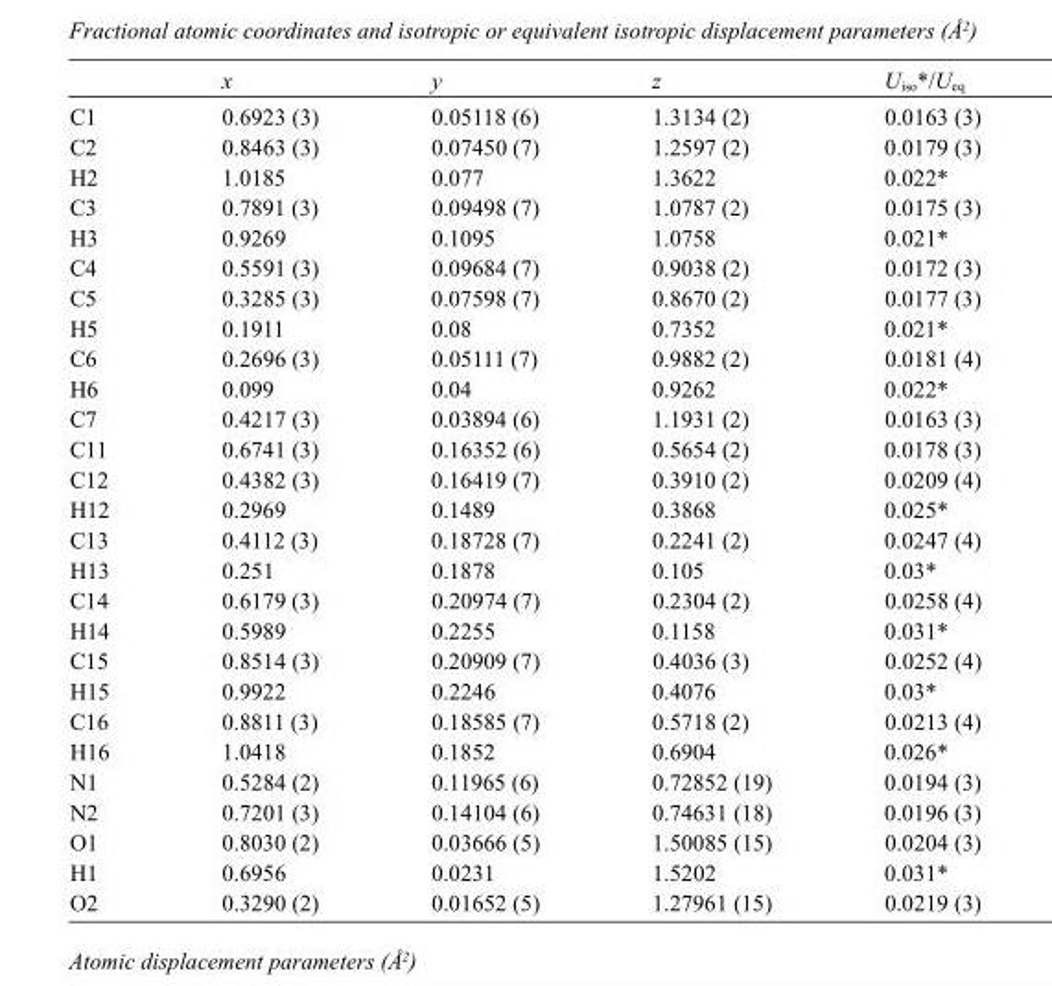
<table><thead><tr><td></td><td>x</td><td>y</td><td>z</td><td>U<sub>iso</sub>*/U<sub>eq</sub></td></tr></thead><tbody><tr><td>C1</td><td>0.6923 (3)</td><td>0.05118 (6)</td><td>1.3134 (2)</td><td>0.0163 (3)</td></tr><tr><td>C2</td><td>0.8463 (3)</td><td>0.07450 (7)</td><td>1.2597 (2)</td><td>0.0179 (3)</td></tr><tr><td>H2</td><td>1.0185</td><td>0.077</td><td>1.3622</td><td>0.022*</td></tr><tr><td>C3</td><td>0.7891 (3)</td><td>0.09498 (7)</td><td>1.0787 (2)</td><td>0.0175 (3)</td></tr><tr><td>H3</td><td>0.9269</td><td>0.1095</td><td>1.0758</td><td>0.021*</td></tr><tr><td>C4</td><td>0.5591 (3)</td><td>0.09684 (7)</td><td>0.9038 (2)</td><td>0.0172 (3)</td></tr><tr><td>C5</td><td>0.3285 (3)</td><td>0.07598 (7)</td><td>0.8670 (2)</td><td>0.0177 (3)</td></tr><tr><td>H5</td><td>0.1911</td><td>0.08</td><td>0.7352</td><td>0.021*</td></tr><tr><td>C6</td><td>0.2696 (3)</td><td>0.05111 (7)</td><td>0.9882 (2)</td><td>0.0181 (4)</td></tr><tr><td>H6</td><td>0.099</td><td>0.04</td><td>0.9262</td><td>0.022*</td></tr><tr><td>C7</td><td>0.4217 (3)</td><td>0.03894 (6)</td><td>1.1931 (2)</td><td>0.0163 (3)</td></tr><tr><td>C11</td><td>0.6741 (3)</td><td>0.16352 (6)</td><td>0.5654 (2)</td><td>0.0178 (3)</td></tr><tr><td>C12</td><td>0.4382 (3)</td><td>0.16419 (7)</td><td>0.3910 (2)</td><td>0.0209 (4)</td></tr><tr><td>H12</td><td>0.2969</td><td>0.1489</td><td>0.3868</td><td>0.025*</td></tr><tr><td>C13</td><td>0.4112 (3)</td><td>0.18728 (7)</td><td>0.2241 (2)</td><td>0.0247 (4)</td></tr><tr><td>H13</td><td>0.251</td><td>0.1878</td><td>0.105</td><td>0.03*</td></tr><tr><td>C14</td><td>0.6179 (3)</td><td>0.20974 (7)</td><td>0.2304 (2)</td><td>0.0258 (4)</td></tr><tr><td>H14</td><td>0.5989</td><td>0.2255</td><td>0.1158</td><td>0.031*</td></tr><tr><td>C15</td><td>0.8514 (3)</td><td>0.20909 (7)</td><td>0.4036 (3)</td><td>0.0252 (4)</td></tr><tr><td>H15</td><td>0.9922</td><td>0.2246</td><td>0.4076</td><td>0.03*</td></tr><tr><td>C16</td><td>0.8811 (3)</td><td>0.18585 (7)</td><td>0.5718 (2)</td><td>0.0213 (4)</td></tr><tr><td>H16</td><td>1.0418</td><td>0.1852</td><td>0.6904</td><td>0.026*</td></tr><tr><td>N1</td><td>0.5284 (2)</td><td>0.11965 (6)</td><td>0.72852 (19)</td><td>0.0194 (3)</td></tr><tr><td>N2</td><td>0.7201 (3)</td><td>0.14104 (6)</td><td>0.74631 (18)</td><td>0.0196 (3)</td></tr><tr><td>O1</td><td>0.8030 (2)</td><td>0.03666 (5)</td><td>1.50085 (15)</td><td>0.0204 (3)</td></tr><tr><td>H1</td><td>0.6956</td><td>0.0231</td><td>1.5202</td><td>0.031*</td></tr><tr><td>O2</td><td>0.3290 (2)</td><td>0.01652 (5)</td><td>1.27961 (15)</td><td>0.0219 (3)</td></tr></tbody></table>